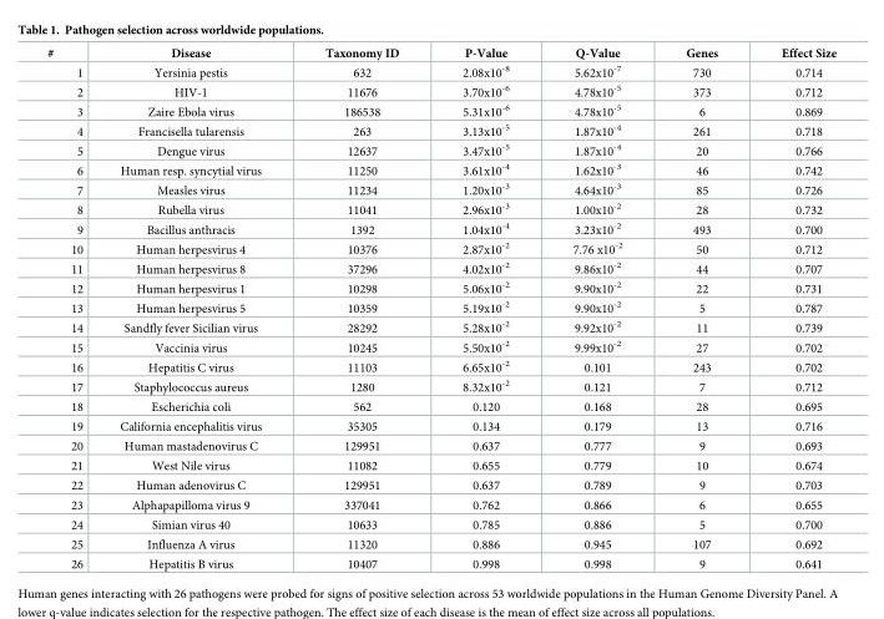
<table><thead><tr><td>#</td><td>Disease</td><td>Taxonomy ID</td><td>P-Value</td><td>Q-Value</td><td>Genes</td><td>Effect Size</td></tr></thead><tbody><tr><td>1</td><td>Yersinia pestis</td><td>632</td><td>2.08x10<sup>-8</sup></td><td>5.62x10<sup>-7</sup></td><td>730</td><td>0.714</td></tr><tr><td>2</td><td>HIV-1</td><td>11676</td><td>3.70x10<sup>-6</sup></td><td>4.78x10<sup>-5</sup></td><td>373</td><td>0.712</td></tr><tr><td>3</td><td>Zaire Ebola virus</td><td>186538</td><td>5.31x10<sup>-6</sup></td><td>4.78x10<sup>-5</sup></td><td>6</td><td>0.869</td></tr><tr><td>4</td><td>Francisella tularensis</td><td>263</td><td>3.13x10<sup>-5</sup></td><td>1.87x10<sup>-4</sup></td><td>261</td><td>0.718</td></tr><tr><td>5</td><td>Dengue virus</td><td>12637</td><td>3.47x10<sup>-5</sup></td><td>1.87x10<sup>-4</sup></td><td>20</td><td>0.766</td></tr><tr><td>6</td><td>Human resp. syncytial virus</td><td>11250</td><td>3.61x10<sup>-4</sup></td><td>1.62x10<sup>-3</sup></td><td>46</td><td>0.742</td></tr><tr><td>7</td><td>Measles virus</td><td>11234</td><td>1.20x10<sup>-3</sup></td><td>4.64x10<sup>-3</sup></td><td>85</td><td>0.726</td></tr><tr><td>8</td><td>Rubella virus</td><td>11041</td><td>2.96x10<sup>-3</sup></td><td>1.00x10<sup>-2</sup></td><td>28</td><td>0.732</td></tr><tr><td>9</td><td>Bacillus anthracis</td><td>1392</td><td>1.04x10<sup>-4</sup></td><td>3.23x10<sup>-2</sup></td><td>493</td><td>0.700</td></tr><tr><td>10</td><td>Human herpesvirus 4</td><td>10376</td><td>2.87x10<sup>-2</sup></td><td>7.76 x10<sup>-2</sup></td><td>50</td><td>0.712</td></tr><tr><td>11</td><td>Human herpesvirus 8</td><td>37296</td><td>4.02x10<sup>-2</sup></td><td>9.86x10<sup>-2</sup></td><td>44</td><td>0.707</td></tr><tr><td>12</td><td>Human herpesvirus 1</td><td>10298</td><td>5.06x10<sup>-2</sup></td><td>9.90x10<sup>-2</sup></td><td>22</td><td>0.731</td></tr><tr><td>13</td><td>Human herpesvirus 5</td><td>10359</td><td>5.19x10<sup>-2</sup></td><td>9.90x10<sup>-2</sup></td><td>5</td><td>0.787</td></tr><tr><td>14</td><td>Sandfly fever Sicilian virus</td><td>28292</td><td>5.28x10<sup>-2</sup></td><td>9.92x10<sup>-2</sup></td><td>11</td><td>0.739</td></tr><tr><td>15</td><td>Vaccinia virus</td><td>10245</td><td>5.50x10<sup>-2</sup></td><td>9.99x10<sup>-2</sup></td><td>27</td><td>0.702</td></tr><tr><td>16</td><td>Hepatitis C virus</td><td>11103</td><td>6.65x10<sup>-2</sup></td><td>0.101</td><td>243</td><td>0.702</td></tr><tr><td>17</td><td>Staphylococcus aureus</td><td>1280</td><td>8.32x10<sup>-2</sup></td><td>0.121</td><td>7</td><td>0.712</td></tr><tr><td>18</td><td>Escherichia coli</td><td>562</td><td>0.120</td><td>0.168</td><td>28</td><td>0.695</td></tr><tr><td>19</td><td>California encephalitis virus</td><td>35305</td><td>0.134</td><td>0.179</td><td>13</td><td>0.716</td></tr><tr><td>20</td><td>Human mastadenovirus C</td><td>129951</td><td>0.637</td><td>0.777</td><td>9</td><td>0.693</td></tr><tr><td>21</td><td>West Nile virus</td><td>11082</td><td>0.655</td><td>0.779</td><td>10</td><td>0.674</td></tr><tr><td>22</td><td>Human adenovirus C</td><td>129951</td><td>0.637</td><td>0.789</td><td>9</td><td>0.703</td></tr><tr><td>23</td><td>Alphapapilloma virus 9</td><td>337041</td><td>0.762</td><td>0.866</td><td>6</td><td>0.655</td></tr><tr><td>24</td><td>Simian virus 40</td><td>10633</td><td>0.785</td><td>0.886</td><td>5</td><td>0.700</td></tr><tr><td>25</td><td>Influenza A virus</td><td>11320</td><td>0.886</td><td>0.945</td><td>107</td><td>0.692</td></tr><tr><td>26</td><td>Hepatitis B virus</td><td>10407</td><td>0.998</td><td>0.998</td><td>9</td><td>0.641</td></tr></tbody></table>